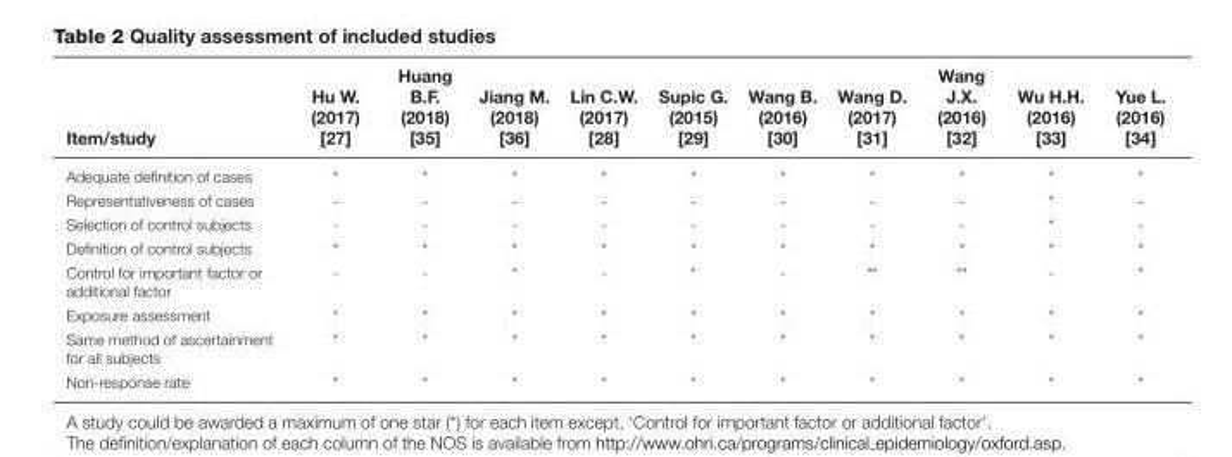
<table><thead><tr><td>Item/study</td><td>Hu W. (2017) [27]</td><td>Huang B.F. (2018) [35]</td><td>Jiang M. (2018) [36]</td><td>Lin C.W. (2017) [28]</td><td>Supic G. (2015) [29]</td><td>Wang B. (2016) [30]</td><td>Wang D. (2017) [31]</td><td>Wang J.X. (2016) [32]</td><td>Wu H.H. (2016) [33]</td><td>Yue L. (2016) [34]</td></tr></thead><tbody><tr><td>Adequate definition of cases</td><td>*</td><td>*</td><td>*</td><td>*</td><td>*</td><td>*</td><td>*</td><td>*</td><td>*</td><td>*</td></tr><tr><td>Representativeness of cases</td><td>-</td><td>-</td><td>-</td><td>-</td><td>-</td><td>-</td><td>-</td><td>-</td><td>*</td><td>-</td></tr><tr><td>Selection of control subjects</td><td>-</td><td>-</td><td>-</td><td>-</td><td>-</td><td>-</td><td>-</td><td>-</td><td>*</td><td>-</td></tr><tr><td>Definition of control subjects</td><td>*</td><td>*</td><td>*</td><td>*</td><td>*</td><td>*</td><td>*</td><td>*</td><td>*</td><td>*</td></tr><tr><td>Control for important factor or additional factor</td><td>-</td><td>-</td><td>*</td><td>-</td><td>*</td><td>-</td><td>**</td><td>**</td><td>-</td><td>*</td></tr><tr><td>Exposure assessment</td><td>*</td><td>*</td><td>*</td><td>*</td><td>*</td><td>*</td><td>*</td><td>*</td><td>*</td><td>*</td></tr><tr><td>Same method of ascertainment for all subjects</td><td>*</td><td>*</td><td>*</td><td>*</td><td>*</td><td>*</td><td>*</td><td>*</td><td>*</td><td>*</td></tr><tr><td>Non-response rate</td><td>*</td><td>*</td><td>*</td><td>*</td><td>*</td><td>*</td><td>*</td><td>*</td><td>*</td><td>*</td></tr></tbody></table>